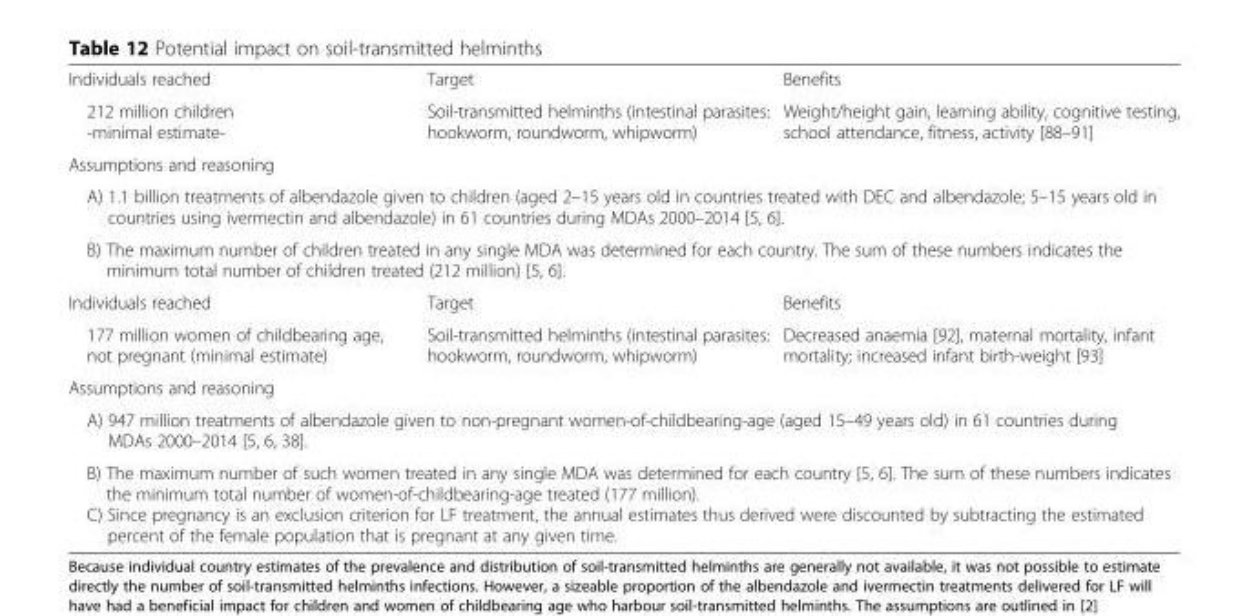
<table><tbody><tr><td>Individuals reached</td><td>Target</td><td>Benefits</td></tr><tr><td>212 million children -minimal estimate-</td><td>Soil-transmitted helminths (intestinal parasites: hookworm, roundworm, whipworm)</td><td>Weight/height gain, learning ability, cognitive testing, school attendance, fitness, activity [88–91]</td></tr><tr><td colspan="3">Assumptions and reasoning</td></tr><tr><td colspan="3">A) 1.1 billion treatments of albendazole given to children (aged 2–15 years old in countries treated with DEC and albendazole; 5–15 years old in countries using ivermectin and albendazole) in 61 countries during MDAs 2000–2014 [5, 6].</td></tr><tr><td colspan="3">B) The maximum number of children treated in any single MDA was determined for each country. The sum of these numbers indicates the minimum total number of children treated (212 million) [5, 6].</td></tr><tr><td>Individuals reached</td><td>Target</td><td>Benefits</td></tr><tr><td>177 million women of childbearing age, not pregnant (minimal estimate)</td><td>Soil-transmitted helminths (intestinal parasites: hookworm, roundworm, whipworm)</td><td>Decreased anaemia [92], maternal mortality, infant mortality; increased infant birth-weight [93]</td></tr><tr><td colspan="3">Assumptions and reasoning</td></tr><tr><td colspan="3">A) 947 million treatments of albendazole given to non-pregnant women-of-childbearing-age (aged 15–49 years old) in 61 countries during MDAs 2000–2014 [5, 6, 38].</td></tr><tr><td colspan="3">B) The maximum number of such women treated in any single MDA was determined for each country [5, 6]. The sum of these numbers indicates the minimum total number of women-of-childbearing-age treated (177 million). C) Since pregnancy is an exclusion criterion for LF treatment, the annual estimates thus derived were discounted by subtracting the estimated percent of the female population that is pregnant at any given time.</td></tr></tbody></table>